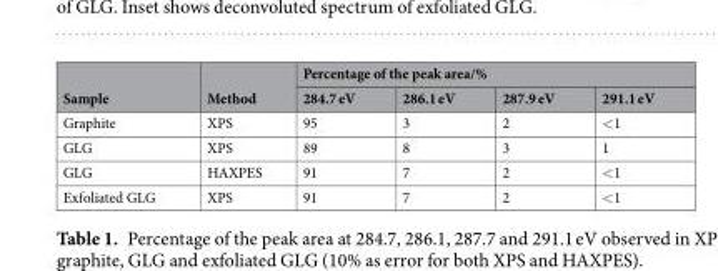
<table><thead><tr><td rowspan="2">Sample</td><td rowspan="2">Method</td><td colspan="4">Percentage of the peak area/%</td></tr><tr><td>284.7 eV</td><td>286.1 eV</td><td>287.9 eV</td><td>291.1 eV</td></tr></thead><tbody><tr><td>Graphite</td><td>XPS</td><td>95</td><td>3</td><td>2</td><td>&lt;1</td></tr><tr><td>GLG</td><td>XPS</td><td>89</td><td>8</td><td>3</td><td>1</td></tr><tr><td>GLG</td><td>HAXPES</td><td>91</td><td>7</td><td>2</td><td>&lt;1</td></tr><tr><td>Exfoliated GLG</td><td>XPS</td><td>91</td><td>7</td><td>2</td><td>&lt;1</td></tr></tbody></table>